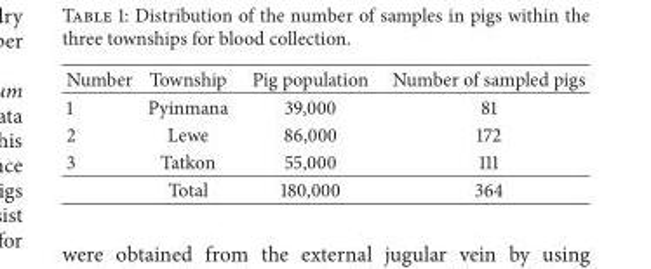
<table><thead><tr><td>Number</td><td>Township</td><td>Pig population</td><td>Number of sampled pigs</td></tr></thead><tbody><tr><td>1</td><td>Pyinmana</td><td>39,000</td><td>81</td></tr><tr><td>2</td><td>Lewe</td><td>86,000</td><td>172</td></tr><tr><td rowspan="2">3</td><td>Tatkon</td><td>55,000</td><td>111</td></tr><tr><td>Total</td><td>180,000</td><td>364</td></tr></tbody></table>